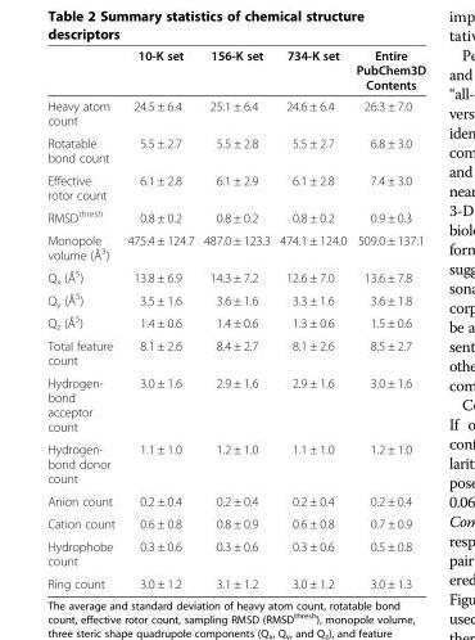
<table><thead><tr><td></td><td>10-K set</td><td>156-K set</td><td>734-K set</td><td>Entire PubChem3D Contents</td></tr></thead><tbody><tr><td>Heavy atom count</td><td>24.5 ± 6.4</td><td>25.1 ± 6.4</td><td>24.6 ± 6.4</td><td>26.3 ± 7.0</td></tr><tr><td>Rotatable bond count</td><td>5.5 ± 2.7</td><td>5.5 ± 2.8</td><td>5.5 ± 2.7</td><td>6.8 ± 3.0</td></tr><tr><td>Effective rotor count</td><td>6.1 ± 2.8</td><td>6.1 ± 2.9</td><td>6.1 ± 2.8</td><td>7.4 ± 3.0</td></tr><tr><td>RMSD<sup>thresh</sup></td><td>0.8 ± 0.2</td><td>0.8 ± 0.2</td><td>0.8 ± 0.2</td><td>0.9 ± 0.3</td></tr><tr><td>Monopole volume (Å<sup>3</sup>)</td><td>475.4 ± 124.7</td><td>487.0 ± 123.3</td><td>474.1 ± 124.0</td><td>509.0 ± 137.1</td></tr><tr><td>Q<sub>x</sub> (Å<sup>5</sup>)</td><td>13.8 ± 6.9</td><td>14.3 ± 7.2</td><td>12.6 ± 7.0</td><td>13.6 ± 7.8</td></tr><tr><td>Q<sub>y</sub> (Å<sup>5</sup>)</td><td>3.5 ± 1.6</td><td>3.6 ± 1.6</td><td>3.3 ± 1.6</td><td>3.6 ± 1.8</td></tr><tr><td>Q<sub>z</sub> (Å<sup>5</sup>)</td><td>1.4 ± 0.6</td><td>1.4 ± 0.6</td><td>1.3 ± 0.6</td><td>1.5 ± 0.6</td></tr><tr><td>Total feature count</td><td>8.1 ± 2.6</td><td>8.4 ± 2.7</td><td>8.1 ± 2.6</td><td>8.5 ± 2.7</td></tr><tr><td>Hydrogen- bond acceptor count</td><td>3.0 ± 1.6</td><td>2.9 ± 1.6</td><td>2.9 ± 1.6</td><td>3.0 ± 1.6</td></tr><tr><td>Hydrogen- bond donor count</td><td>1.1 ± 1.0</td><td>1.2 ± 1.0</td><td>1.1 ± 1.0</td><td>1.2 ± 1.0</td></tr><tr><td>Anion count</td><td>0.2 ± 0.4</td><td>0.2 ± 0.4</td><td>0.2 ± 0.4</td><td>0.2 ± 0.4</td></tr><tr><td>Cation count</td><td>0.6 ± 0.8</td><td>0.8 ± 0.9</td><td>0.6 ± 0.8</td><td>0.7 ± 0.9</td></tr><tr><td>Hydrophobe count</td><td>0.3 ± 0.6</td><td>0.3 ± 0.6</td><td>0.3 ± 0.6</td><td>0.5 ± 0.8</td></tr><tr><td>Ring count</td><td>3.0 ± 1.2</td><td>3.1 ± 1.2</td><td>3.0 ± 1.2</td><td>3.0 ± 1.3</td></tr></tbody></table>